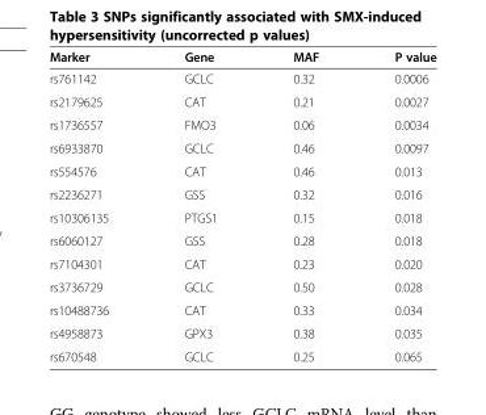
<table><thead><tr><td>Marker</td><td>Gene</td><td>MAF</td><td>P value</td></tr></thead><tbody><tr><td>rs761142</td><td>GCLC</td><td>0.32</td><td>0.0006</td></tr><tr><td>rs2179625</td><td>CAT</td><td>0.21</td><td>0.0027</td></tr><tr><td>rs1736557</td><td>FMO3</td><td>0.06</td><td>0.0034</td></tr><tr><td>rs6933870</td><td>GCLC</td><td>0.46</td><td>0.0097</td></tr><tr><td>rs554576</td><td>CAT</td><td>0.46</td><td>0.013</td></tr><tr><td>rs2236271</td><td>GSS</td><td>0.32</td><td>0.016</td></tr><tr><td>rs10306135</td><td>PTGS1</td><td>0.15</td><td>0.018</td></tr><tr><td>rs6060127</td><td>GSS</td><td>0.28</td><td>0.018</td></tr><tr><td>rs7104301</td><td>CAT</td><td>0.23</td><td>0.020</td></tr><tr><td>rs3736729</td><td>GCLC</td><td>0.50</td><td>0.028</td></tr><tr><td>rs10488736</td><td>CAT</td><td>0.33</td><td>0.034</td></tr><tr><td>rs4958873</td><td>GPX3</td><td>0.38</td><td>0.035</td></tr><tr><td>rs670548</td><td>GCLC</td><td>0.25</td><td>0.065</td></tr></tbody></table>